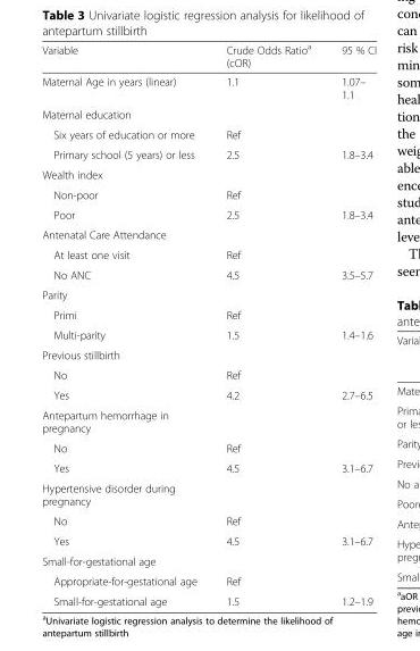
<table><thead><tr><td>Variable</td><td>Crude Odds Ratio<sup>a</sup> (cOR)</td><td>95 % CI</td></tr></thead><tbody><tr><td>Maternal Age in years (linear)</td><td>1.1</td><td>1.07– 1.1</td></tr><tr><td colspan="3">Maternal education</td></tr><tr><td>Six years of education or more</td><td>Ref</td><td></td></tr><tr><td>Primary school (5 years) or less</td><td>2.5</td><td>1.8–3.4</td></tr><tr><td colspan="3">Wealth index</td></tr><tr><td>Non-poor</td><td>Ref</td><td></td></tr><tr><td>Poor</td><td>2.5</td><td>1.8–3.4</td></tr><tr><td colspan="3">Antenatal Care Attendance</td></tr><tr><td>At least one visit</td><td>Ref</td><td></td></tr><tr><td>No ANC</td><td>4.5</td><td>3.5–5.7</td></tr><tr><td colspan="3">Parity</td></tr><tr><td>Primi</td><td>Ref</td><td></td></tr><tr><td>Multi-parity</td><td>1.5</td><td>1.4–1.6</td></tr><tr><td colspan="3">Previous stillbirth</td></tr><tr><td>No</td><td>Ref</td><td></td></tr><tr><td>Yes</td><td>4.2</td><td>2.7–6.5</td></tr><tr><td colspan="3">Antepartum hemorrhage in pregnancy</td></tr><tr><td>No</td><td>Ref</td><td></td></tr><tr><td>Yes</td><td>4.5</td><td>3.1–6.7</td></tr><tr><td colspan="3">Hypertensive disorder during pregnancy</td></tr><tr><td>No</td><td>Ref</td><td></td></tr><tr><td>Yes</td><td>4.5</td><td>3.1–6.7</td></tr><tr><td colspan="3">Small-for-gestational age</td></tr><tr><td>Appropriate-for-gestational age</td><td>Ref</td><td></td></tr><tr><td>Small-for-gestational age</td><td>1.5</td><td>1.2–1.9</td></tr></tbody></table>